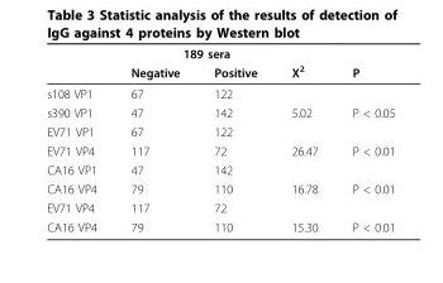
<table><thead><tr><td rowspan="2"></td><td colspan="2">189 sera</td><td rowspan="2">X<sup>2</sup></td><td rowspan="2">P</td></tr><tr><td>Negative</td><td>Positive</td></tr></thead><tbody><tr><td>s108 VP1</td><td>67</td><td>122</td><td></td><td></td></tr><tr><td>s390 VP1</td><td>47</td><td>142</td><td>5.02</td><td>P &lt; 0.05</td></tr><tr><td>EV71 VP1</td><td>67</td><td>122</td><td></td><td></td></tr><tr><td>EV71 VP4</td><td>117</td><td>72</td><td>26.47</td><td>P &lt; 0.01</td></tr><tr><td>CA16 VP1</td><td>47</td><td>142</td><td></td><td></td></tr><tr><td>CA16 VP4</td><td>79</td><td>110</td><td>16.78</td><td>P &lt; 0.01</td></tr><tr><td>EV71 VP4</td><td>117</td><td>72</td><td></td><td></td></tr><tr><td>CA16 VP4</td><td>79</td><td>110</td><td>15.30</td><td>P &lt; 0.01</td></tr></tbody></table>